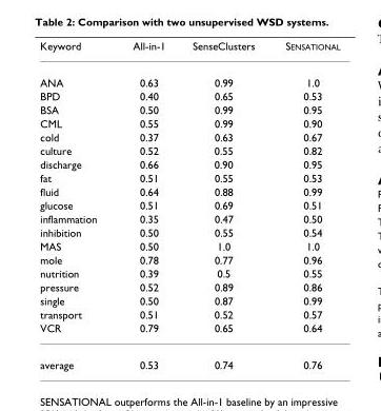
<table><thead><tr><td>Keyword</td><td>All-in-1</td><td>SenseClusters</td><td>SENSATIONAL</td></tr></thead><tbody><tr><td>ANA</td><td>0.63</td><td>0.99</td><td>1.0</td></tr><tr><td>BPD</td><td>0.40</td><td>0.65</td><td>0.53</td></tr><tr><td>BSA</td><td>0.50</td><td>0.99</td><td>0.95</td></tr><tr><td>CML</td><td>0.55</td><td>0.99</td><td>0.90</td></tr><tr><td>cold</td><td>0.37</td><td>0.63</td><td>0.67</td></tr><tr><td>culture</td><td>0.52</td><td>0.55</td><td>0.82</td></tr><tr><td>discharge</td><td>0.66</td><td>0.90</td><td>0.95</td></tr><tr><td>fat</td><td>0.51</td><td>0.55</td><td>0.53</td></tr><tr><td>fluid</td><td>0.64</td><td>0.88</td><td>0.99</td></tr><tr><td>glucose</td><td>0.51</td><td>0.69</td><td>0.51</td></tr><tr><td>inflammation</td><td>0.35</td><td>0.47</td><td>0.50</td></tr><tr><td>inhibition</td><td>0.50</td><td>0.55</td><td>0.54</td></tr><tr><td>MAS</td><td>0.50</td><td>1.0</td><td>1.0</td></tr><tr><td>mole</td><td>0.78</td><td>0.77</td><td>0.96</td></tr><tr><td>nutrition</td><td>0.39</td><td>0.5</td><td>0.55</td></tr><tr><td>pressure</td><td>0.52</td><td>0.89</td><td>0.86</td></tr><tr><td>single</td><td>0.50</td><td>0.87</td><td>0.99</td></tr><tr><td>transport</td><td>0.51</td><td>0.52</td><td>0.57</td></tr><tr><td>VCR</td><td>0.79</td><td>0.65</td><td>0.64</td></tr><tr><td>average</td><td>0.53</td><td>0.74</td><td>0.76</td></tr></tbody></table>